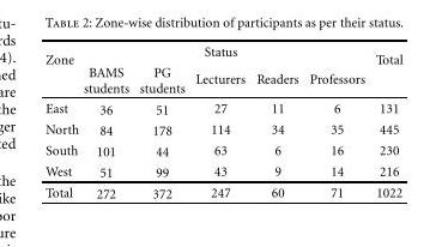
<table><thead><tr><td rowspan="2">Zone</td><td rowspan="2">BAMS students</td><td rowspan="2">PG students</td><td rowspan="2">Status Lecturers</td><td rowspan="2">Readers</td><td rowspan="2">Professors</td><td rowspan="2">Total</td></tr><tr></tr></thead><tbody><tr><td>East</td><td>36</td><td>51</td><td>27</td><td>11</td><td>6</td><td>131</td></tr><tr><td>North</td><td>84</td><td>178</td><td>114</td><td>34</td><td>35</td><td>445</td></tr><tr><td>South</td><td>101</td><td>44</td><td>63</td><td>6</td><td>16</td><td>230</td></tr><tr><td>West</td><td>51</td><td>99</td><td>43</td><td>9</td><td>14</td><td>216</td></tr><tr><td>Total</td><td>272</td><td>372</td><td>247</td><td>60</td><td>71</td><td>1022</td></tr></tbody></table>